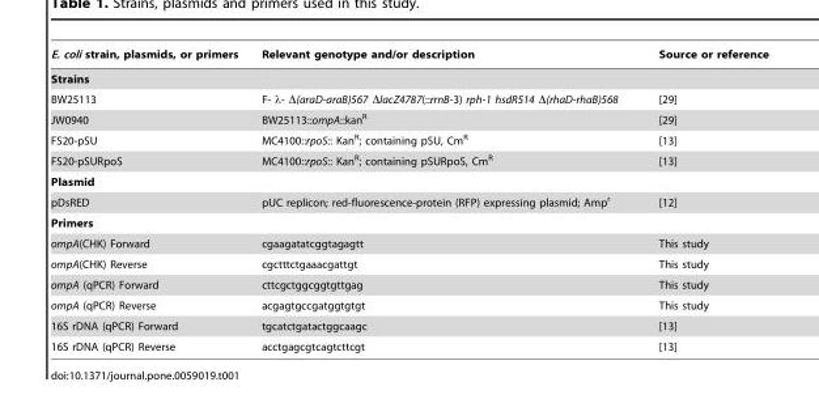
<table><thead><tr><td>E. coli strain, plasmids, or primers</td><td>Relevant genotype and/or description</td><td>Source or reference</td></tr></thead><tbody><tr><td colspan="3">Strains</td></tr><tr><td>BW25113</td><td>F- λ- Δ(araD-araB)567 ΔlacZ4787(::rrnB-3) rph-1 hsdR514 Δ(rhaD-rhaB)568</td><td>[29]</td></tr><tr><td>JW0940</td><td>BW25113::ompA::kan<sup>R</sup></td><td>[29]</td></tr><tr><td>FS20-pSU</td><td>MC4100::rpoS:: Kan<sup>R</sup>; containing pSU, Cm<sup>R</sup></td><td>[13]</td></tr><tr><td>FS20-pSURpoS</td><td>MC4100::rpoS:: Kan<sup>R</sup>; containing pSURpoS, Cm<sup>R</sup></td><td>[13]</td></tr><tr><td colspan="3">Plasmid</td></tr><tr><td>pDsRED</td><td>pUC replicon; red-fluorescence-protein (RFP) expressing plasmid; Amp<sup>r</sup></td><td>[12]</td></tr><tr><td colspan="3">Primers</td></tr><tr><td>ompA(CHK) Forward</td><td>cgaagatatcggtagagtt</td><td>This study</td></tr><tr><td>ompA(CHK) Reverse</td><td>cgctttctgaaacgattgt</td><td>This study</td></tr><tr><td>ompA (qPCR) Forward</td><td>cttcgctggcggtgttgag</td><td>This study</td></tr><tr><td>ompA (qPCR) Reverse</td><td>acgagtgccgatggtgtgt</td><td>This study</td></tr><tr><td>16S rDNA (qPCR) Forward</td><td>tgcatctgatactggcaagc</td><td>[13]</td></tr><tr><td>16S rDNA (qPCR) Reverse</td><td>acctgagcgtcagtcttcgt</td><td>[13]</td></tr></tbody></table>